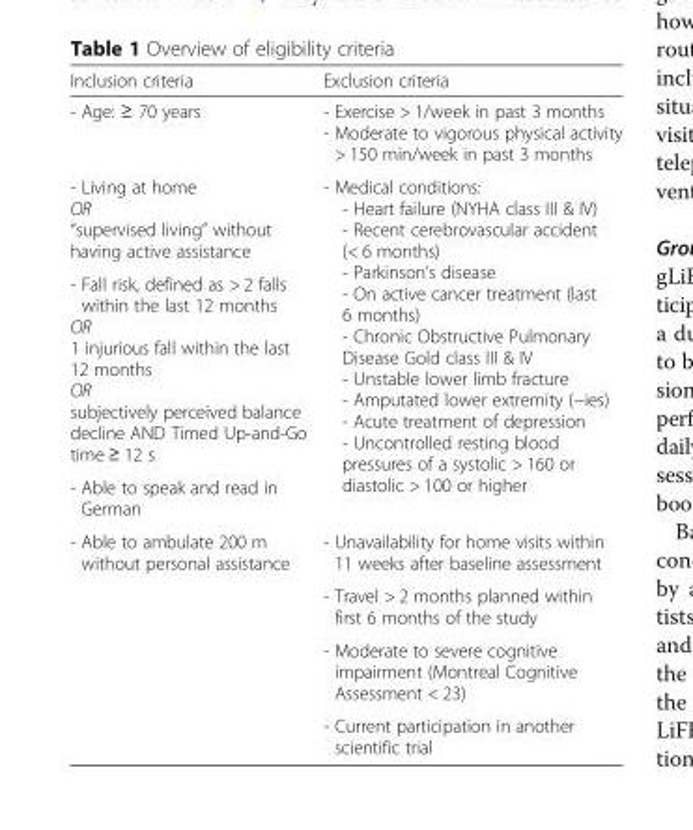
<table><thead><tr><td>Inclusion criteria</td><td>Exclusion criteria</td></tr></thead><tbody><tr><td>- Age: ≥ 70 years</td><td>- Exercise &gt; 1/week in past 3 months - Moderate to vigorous physical activity &gt; 150 min/week in past 3 months</td></tr><tr><td>- Living at home OR “supervised living” without having active assistance</td><td rowspan="3">- Medical conditions: - Heart failure (NYHA class III &amp; IV) - Recent cerebrovascular accident (&lt; 6 months) - Parkinson’s disease - On active cancer treatment (last 6 months) - Chronic Obstructive Pulmonary Disease Gold class III &amp; IV - Unstable lower limb fracture - Amputated lower extremity (−ies) - Acute treatment of depression - Uncontrolled resting blood pressures of a systolic &gt; 160 or diastolic &gt; 100 or higher</td></tr><tr><td>- Fall risk, defined as &gt; 2 falls within the last 12 months OR 1 injurious fall within the last 12 months OR subjectively perceived balance decline AND Timed Up-and-Go time ≥ 12 s</td></tr><tr><td>- Able to speak and read in German</td></tr><tr><td rowspan="4">- Able to ambulate 200 m without personal assistance</td><td>- Unavailability for home visits within 11 weeks after baseline assessment</td></tr><tr><td>- Travel &gt; 2 months planned within first 6 months of the study</td></tr><tr><td>- Moderate to severe cognitive impairment (Montreal Cognitive Assessment &lt; 23)</td></tr><tr><td>- Current participation in another scientific trial</td></tr></tbody></table>